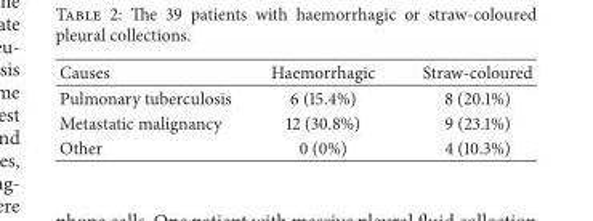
<table><thead><tr><td>Causes</td><td>Haemorrhagic</td><td>Straw-coloured</td></tr></thead><tbody><tr><td>Pulmonary tuberculosis</td><td>6 (15.4%)</td><td>8 (20.1%)</td></tr><tr><td>Metastatic malignancy</td><td>12 (30.8%)</td><td>9 (23.1%)</td></tr><tr><td>Other</td><td>0 (0%)</td><td>4 (10.3%)</td></tr></tbody></table>